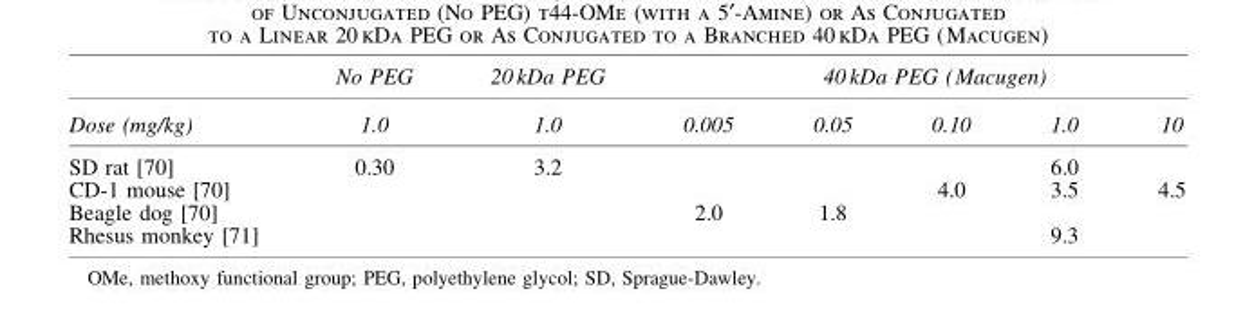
<table><thead><tr><td rowspan="2">Dose (mg/kg)</td><td rowspan="2">No PEG 1.0</td><td rowspan="2">20 kDa PEG 1.0</td><td colspan="5">40 kDa PEG (Macugen)</td></tr><tr><td>0.005</td><td>0.05</td><td>0.10</td><td>1.0</td><td>10</td></tr></thead><tbody><tr><td>SD rat [70]</td><td>0.30</td><td>3.2</td><td></td><td></td><td></td><td>6.0</td><td></td></tr><tr><td>CD-1 mouse [70]</td><td></td><td></td><td></td><td></td><td>4.0</td><td>3.5</td><td>4.5</td></tr><tr><td>Beagle dog [70]</td><td></td><td></td><td>2.0</td><td>1.8</td><td></td><td></td><td></td></tr><tr><td>Rhesus monkey [71]</td><td></td><td></td><td></td><td></td><td></td><td>9.3</td><td></td></tr></tbody></table>